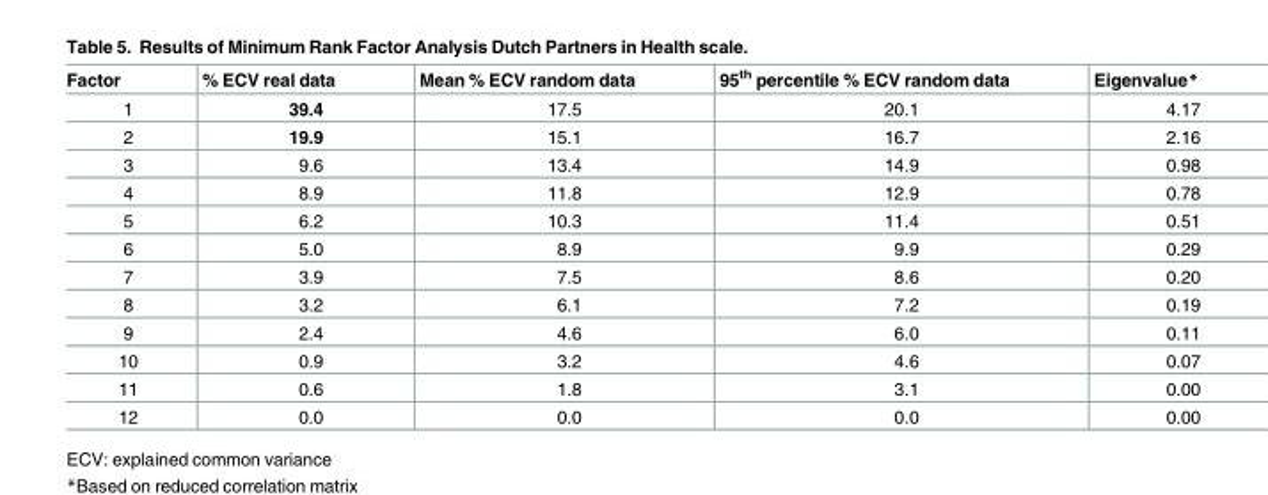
<table><thead><tr><td>Factor</td><td>% ECV real data</td><td>Mean % ECV random data</td><td>95<sup>th</sup> percentile % ECV random data</td><td>Eigenvalue*</td></tr></thead><tbody><tr><td>1</td><td>39.4</td><td>17.5</td><td>20.1</td><td>4.17</td></tr><tr><td>2</td><td>19.9</td><td>15.1</td><td>16.7</td><td>2.16</td></tr><tr><td>3</td><td>9.6</td><td>13.4</td><td>14.9</td><td>0.98</td></tr><tr><td>4</td><td>8.9</td><td>11.8</td><td>12.9</td><td>0.78</td></tr><tr><td>5</td><td>6.2</td><td>10.3</td><td>11.4</td><td>0.51</td></tr><tr><td>6</td><td>5.0</td><td>8.9</td><td>9.9</td><td>0.29</td></tr><tr><td>7</td><td>3.9</td><td>7.5</td><td>8.6</td><td>0.20</td></tr><tr><td>8</td><td>3.2</td><td>6.1</td><td>7.2</td><td>0.19</td></tr><tr><td>9</td><td>2.4</td><td>4.6</td><td>6.0</td><td>0.11</td></tr><tr><td>10</td><td>0.9</td><td>3.2</td><td>4.6</td><td>0.07</td></tr><tr><td>11</td><td>0.6</td><td>1.8</td><td>3.1</td><td>0.00</td></tr><tr><td>12</td><td>0.0</td><td>0.0</td><td>0.0</td><td>0.00</td></tr></tbody></table>